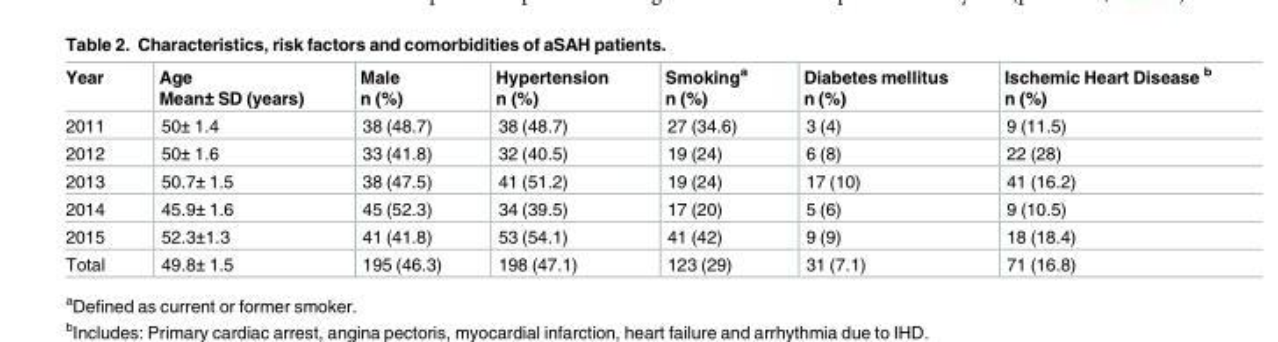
<table><thead><tr><td>Year</td><td>Age Mean± SD (years)</td><td>Male n (%)</td><td>Hypertension n (%)</td><td>Smoking<sup>a</sup> n (%)</td><td>Diabetes mellitus n (%)</td><td>Ischemic Heart Disease <sup>b</sup> n (%)</td></tr></thead><tbody><tr><td>2011</td><td>50± 1.4</td><td>38 (48.7)</td><td>38 (48.7)</td><td>27 (34.6)</td><td>3 (4)</td><td>9 (11.5)</td></tr><tr><td>2012</td><td>50± 1.6</td><td>33 (41.8)</td><td>32 (40.5)</td><td>19 (24)</td><td>6 (8)</td><td>22 (28)</td></tr><tr><td>2013</td><td>50.7± 1.5</td><td>38 (47.5)</td><td>41 (51.2)</td><td>19 (24)</td><td>17 (10)</td><td>41 (16.2)</td></tr><tr><td>2014</td><td>45.9± 1.6</td><td>45 (52.3)</td><td>34 (39.5)</td><td>17 (20)</td><td>5 (6)</td><td>9 (10.5)</td></tr><tr><td>2015</td><td>52.3±1.3</td><td>41 (41.8)</td><td>53 (54.1)</td><td>41 (42)</td><td>9 (9)</td><td>18 (18.4)</td></tr><tr><td>Total</td><td>49.8± 1.5</td><td>195 (46.3)</td><td>198 (47.1)</td><td>123 (29)</td><td>31 (7.1)</td><td>71 (16.8)</td></tr></tbody></table>